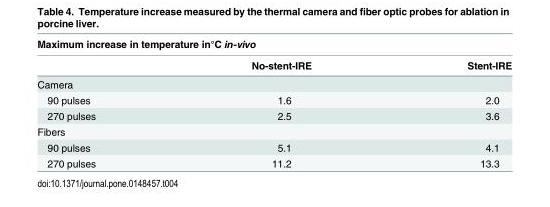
<table><thead><tr><td colspan="3">Maximum increase in temperature in°C in-vivo</td></tr><tr><td></td><td>No-stent-IRE</td><td>Stent-IRE</td></tr></thead><tbody><tr><td colspan="3">Camera</td></tr><tr><td>90 pulses</td><td>1.6</td><td>2.0</td></tr><tr><td>270 pulses</td><td>2.5</td><td>3.6</td></tr><tr><td colspan="3">Fibers</td></tr><tr><td>90 pulses</td><td>5.1</td><td>4.1</td></tr><tr><td>270 pulses</td><td>11.2</td><td>13.3</td></tr></tbody></table>